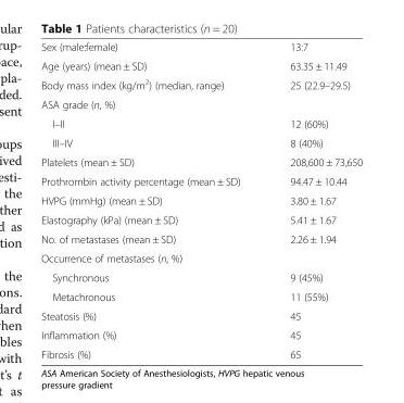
<table><tbody><tr><td>Sex (male:female)</td><td>13:7</td></tr><tr><td>Age (years) (mean ± SD)</td><td>63.35 ± 11.49</td></tr><tr><td>Body mass index (kg/m<sup>2</sup>) (median, range)</td><td>25 (22.9–29.5)</td></tr><tr><td colspan="2">ASA grade (n, %)</td></tr><tr><td>I–II</td><td>12 (60%)</td></tr><tr><td>III–IV</td><td>8 (40%)</td></tr><tr><td>Platelets (mean ± SD)</td><td>208,600 ± 73,650</td></tr><tr><td>Prothrombin activity percentage (mean ± SD)</td><td>94.47 ± 10.44</td></tr><tr><td>HVPG (mmHg) (mean ± SD)</td><td>3.80 ± 1.67</td></tr><tr><td>Elastography (kPa) (mean ± SD)</td><td>5.41 ± 1.67</td></tr><tr><td>No. of metastases (mean ± SD)</td><td>2.26 ± 1.94</td></tr><tr><td colspan="2">Occurrence of metastases (n, %)</td></tr><tr><td>Synchronous</td><td>9 (45%)</td></tr><tr><td>Metachronous</td><td>11 (55%)</td></tr><tr><td>Steatosis (%)</td><td>45</td></tr><tr><td>Inflammation (%)</td><td>45</td></tr><tr><td>Fibrosis (%)</td><td>65</td></tr></tbody></table>